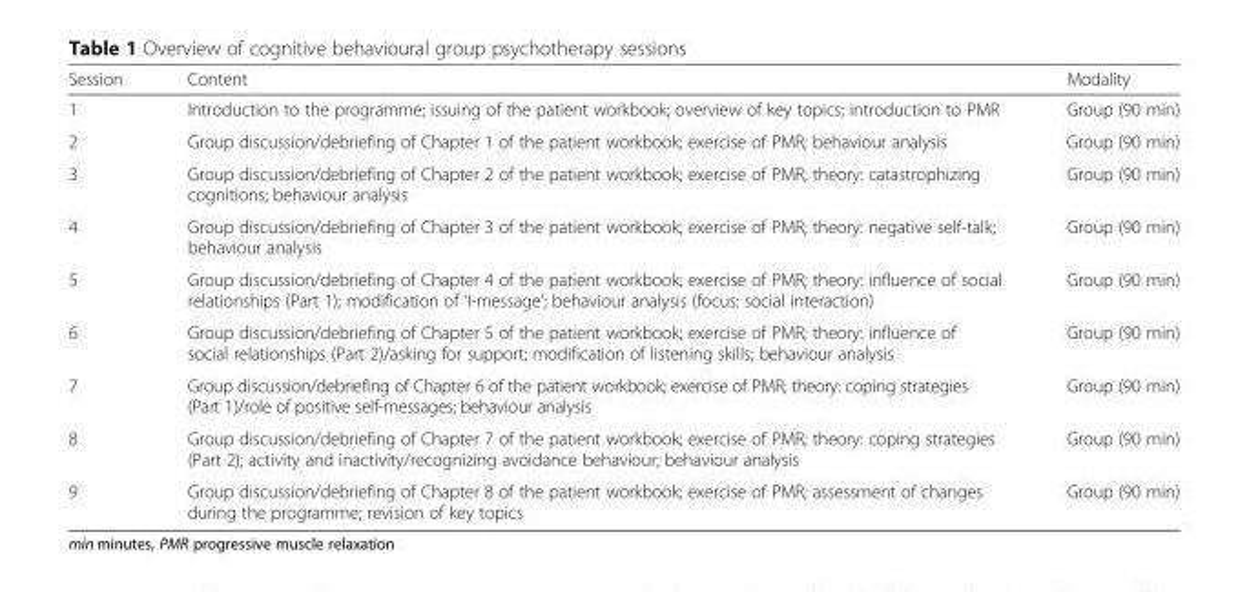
<table><thead><tr><td>Session</td><td>Content</td><td>Modality</td></tr></thead><tbody><tr><td>1</td><td>Introduction to the programme; issuing of the patient workbook; overview of key topics; introduction to PMR</td><td>Group (90 min)</td></tr><tr><td>2</td><td>Group discussion/debriefing of Chapter 1 of the patient workbook; exercise of PMR; behaviour analysis</td><td>Group (90 min)</td></tr><tr><td>3</td><td>Group discussion/debriefing of Chapter 2 of the patient workbook; exercise of PMR; theory: catastrophizing cognitions; behaviour analysis</td><td>Group (90 min)</td></tr><tr><td>4</td><td>Group discussion/debriefing of Chapter 3 of the patient workbook; exercise of PMR; theory: negative self-talk; behaviour analysis</td><td>Group (90 min)</td></tr><tr><td>5</td><td>Group discussion/debriefing of Chapter 4 of the patient workbook; exercise of PMR; theory: influence of social relationships (Part 1); modification of ‘I-message’; behaviour analysis (focus: social interaction)</td><td>Group (90 min)</td></tr><tr><td>6</td><td>Group discussion/debriefing of Chapter 5 of the patient workbook; exercise of PMR; theory: influence of social relationships (Part 2)/asking for support; modification of listening skills; behaviour analysis</td><td>Group (90 min)</td></tr><tr><td>7</td><td>Group discussion/debriefing of Chapter 6 of the patient workbook; exercise of PMR; theory: coping strategies (Part 1)/role of positive self-messages; behaviour analysis</td><td>Group (90 min)</td></tr><tr><td>8</td><td>Group discussion/debriefing of Chapter 7 of the patient workbook; exercise of PMR; theory: coping strategies (Part 2); activity and inactivity/recognizing avoidance behaviour; behaviour analysis</td><td>Group (90 min)</td></tr><tr><td>9</td><td>Group discussion/debriefing of Chapter 8 of the patient workbook; exercise of PMR; assessment of changes during the programme; revision of key topics</td><td>Group (90 min)</td></tr></tbody></table>